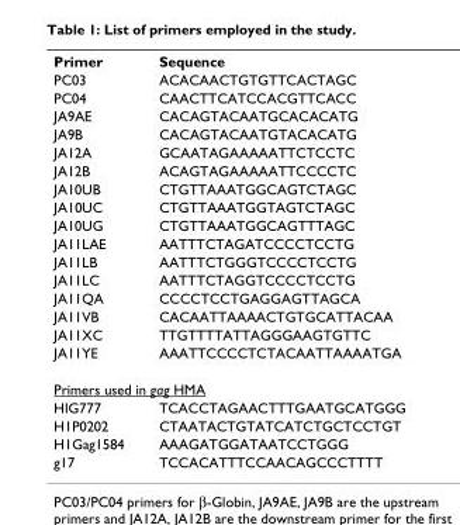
<table><tbody><tr><td>Primer</td><td>Sequence</td></tr><tr><td>PC03</td><td>ACACAACTGTGTTCACTAGC</td></tr><tr><td>PC04</td><td>CAACTTCATCCACGTTCACC</td></tr><tr><td>JA9AE</td><td>CACAGTACAATGCACACATG</td></tr><tr><td>JA9B</td><td>CACAGTACAATGTACACATG</td></tr><tr><td>JA12A</td><td>GCAATAGAAAAATTCTCCTC</td></tr><tr><td>JA12B</td><td>ACAGTAGAAAAATTCCCCTC</td></tr><tr><td>JA10UB</td><td>CTGTTAAATGGCAGTCTAGC</td></tr><tr><td>JA10UC</td><td>CTGTTAAATGGTAGTCTAGC</td></tr><tr><td>JA10UG</td><td>CTGTTAAATGGCAGTTTAGC</td></tr><tr><td>JA11LAE</td><td>AATTTCTAGATCCCCTCCTG</td></tr><tr><td>JA11LB</td><td>AATTTCTGGGTCCCCTCCTG</td></tr><tr><td>JA11LC</td><td>AATTTCTAGGTCCCCTCCTG</td></tr><tr><td>JA11QA</td><td>CCCCTCCTGAGGAGTTAGCA</td></tr><tr><td>JA11VB</td><td>CACAATTAAAACTGTGCATTACAA</td></tr><tr><td>JA11XC</td><td>TTGTTTTATTAGGGAAGTGTTC</td></tr><tr><td>JA11YE</td><td>AAATTCCCCTCTACAATTAAAATGA</td></tr><tr><td colspan="2">Primers used in gag HMA</td></tr><tr><td>HIG777</td><td>TCACCTAGAACTTTGAATGCATGGG</td></tr><tr><td>H1P0202</td><td>CTAATACTGTATCATCTGCTCCTGT</td></tr><tr><td>H1Gag1584</td><td>AAAGATGGATAATCCTGGG</td></tr><tr><td>g17</td><td>TCCACATTTCCAACAGCCCTTTT</td></tr></tbody></table>